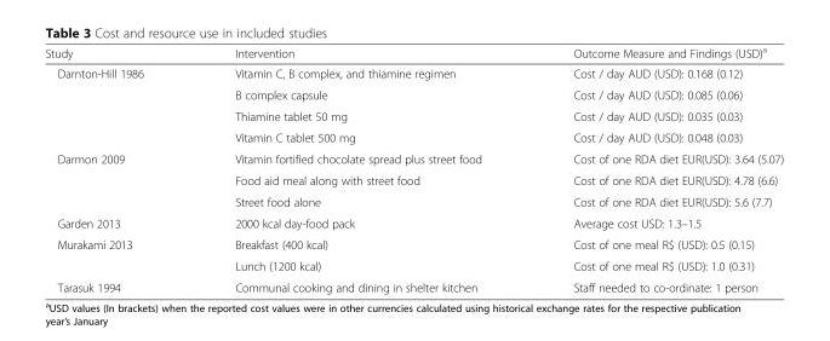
<table><thead><tr><td>Study</td><td>Intervention</td><td>Outcome Measure and Findings (USD)<sup>a</sup></td></tr></thead><tbody><tr><td rowspan="4">Darnton-Hill 1986</td><td>Vitamin C, B complex, and thiamine regimen</td><td>Cost / day AUD (USD): 0.168 (0.12)</td></tr><tr><td>B complex capsule</td><td>Cost / day AUD (USD): 0.085 (0.06)</td></tr><tr><td>Thiamine tablet 50 mg</td><td>Cost / day AUD (USD): 0.035 (0.03)</td></tr><tr><td>Vitamin C tablet 500 mg</td><td>Cost / day AUD (USD): 0.048 (0.03)</td></tr><tr><td rowspan="3">Darmon 2009</td><td>Vitamin fortified chocolate spread plus street food</td><td>Cost of one RDA diet EUR(USD): 3.64 (5.07)</td></tr><tr><td>Food aid meal along with street food</td><td>Cost of one RDA diet EUR(USD): 4.78 (6.6)</td></tr><tr><td>Street food alone</td><td>Cost of one RDA diet EUR(USD): 5.6 (7.7)</td></tr><tr><td>Garden 2013</td><td>2000 kcal day-food pack</td><td>Average cost USD: 1.3–1.5</td></tr><tr><td rowspan="2">Murakami 2013</td><td>Breakfast (400 kcal)</td><td>Cost of one meal R$ (USD): 0.5 (0.15)</td></tr><tr><td>Lunch (1200 kcal)</td><td>Cost of one meal R$ (USD): 1.0 (0.31)</td></tr><tr><td>Tarasuk 1994</td><td>Communal cooking and dining in shelter kitchen</td><td>Staff needed to co-ordinate: 1 person</td></tr></tbody></table>